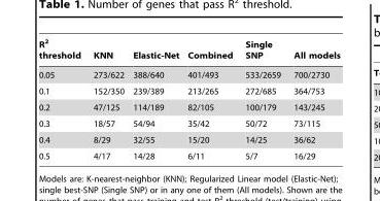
<table><thead><tr><td>R<sup>2</sup> threshold</td><td>KNN</td><td>Elastic-Net</td><td>Combined</td><td>Single SNP</td><td>All models</td></tr></thead><tbody><tr><td>0.05</td><td>273/622</td><td>388/640</td><td>401/493</td><td>533/2659</td><td>700/2730</td></tr><tr><td>0.1</td><td>152/350</td><td>239/389</td><td>213/265</td><td>272/685</td><td>364/753</td></tr><tr><td>0.2</td><td>47/125</td><td>114/189</td><td>82/105</td><td>100/179</td><td>143/245</td></tr><tr><td>0.3</td><td>18/57</td><td>54/94</td><td>35/42</td><td>50/72</td><td>73/115</td></tr><tr><td>0.4</td><td>8/29</td><td>32/55</td><td>15/20</td><td>14/25</td><td>36/62</td></tr><tr><td>0.5</td><td>4/17</td><td>14/28</td><td>6/11</td><td>5/7</td><td>16/29</td></tr></tbody></table>